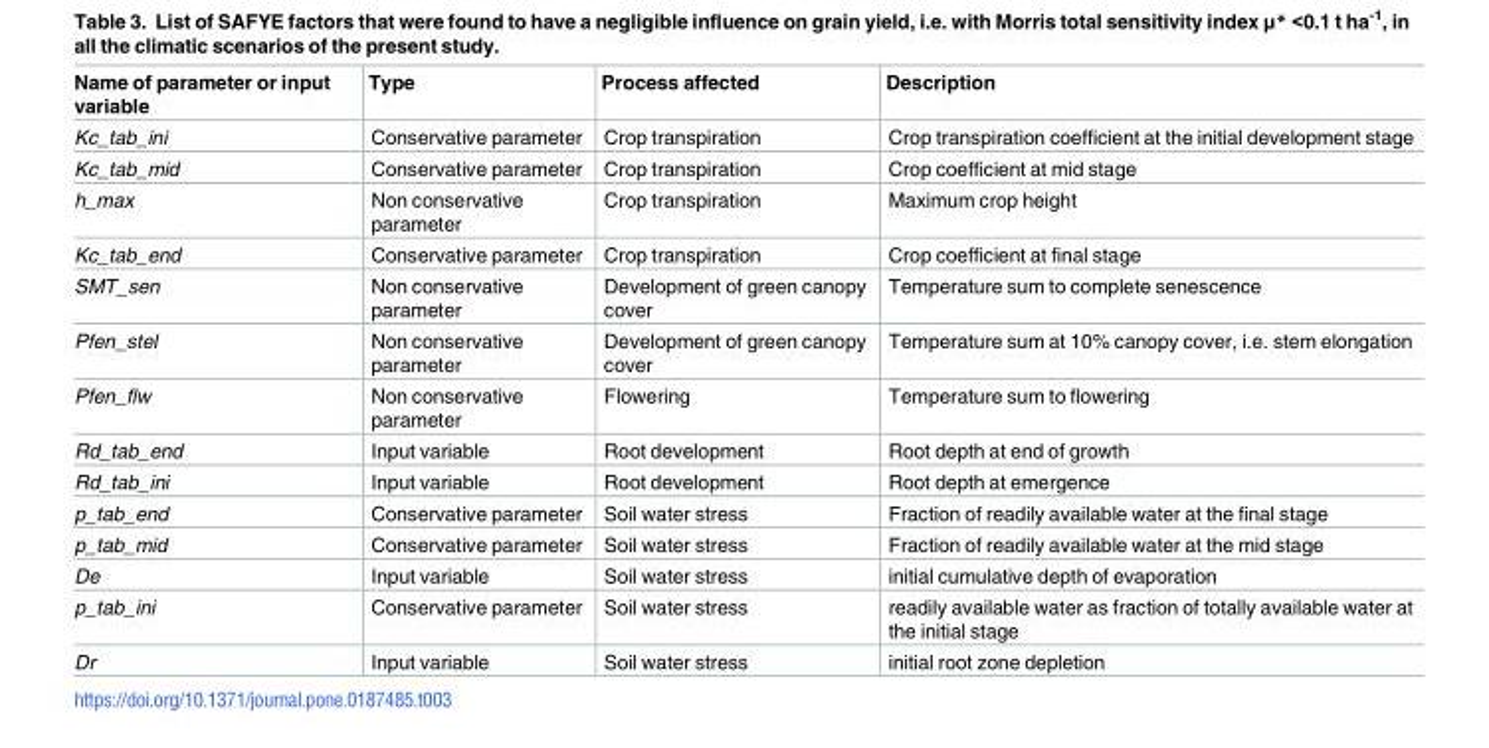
<table><thead><tr><td>Name of parameter or input variable</td><td>Type</td><td>Process affected</td><td>Description</td></tr></thead><tbody><tr><td>Kc_tab_ini</td><td>Conservative parameter</td><td>Crop transpiration</td><td>Crop transpiration coefficient at the initial development stage</td></tr><tr><td>Kc_tab_mid</td><td>Conservative parameter</td><td>Crop transpiration</td><td>Crop coefficient at mid stage</td></tr><tr><td>h_max</td><td>Non conservative parameter</td><td>Crop transpiration</td><td>Maximum crop height</td></tr><tr><td>Kc_tab_end</td><td>Conservative parameter</td><td>Crop transpiration</td><td>Crop coefficient at final stage</td></tr><tr><td>SMT_sen</td><td>Non conservative parameter</td><td>Development of green canopy cover</td><td>Temperature sum to complete senescence</td></tr><tr><td>Pfen_stel</td><td>Non conservative parameter</td><td>Development of green canopy cover</td><td>Temperature sum at 10% canopy cover, i.e. stem elongation</td></tr><tr><td>Pfen_flw</td><td>Non conservative parameter</td><td>Flowering</td><td>Temperature sum to flowering</td></tr><tr><td>Rd_tab_end</td><td>Input variable</td><td>Root development</td><td>Root depth at end of growth</td></tr><tr><td>Rd_tab_ini</td><td>Input variable</td><td>Root development</td><td>Root depth at emergence</td></tr><tr><td>p_tab_end</td><td>Conservative parameter</td><td>Soil water stress</td><td>Fraction of readily available water at the final stage</td></tr><tr><td>p_tab_mid</td><td>Conservative parameter</td><td>Soil water stress</td><td>Fraction of readily available water at the mid stage</td></tr><tr><td>De</td><td>Input variable</td><td>Soil water stress</td><td>initial cumulative depth of evaporation</td></tr><tr><td>p_tab_ini</td><td>Conservative parameter</td><td>Soil water stress</td><td>readily available water as fraction of totally available water at the initial stage</td></tr><tr><td>Dr</td><td>Input variable</td><td>Soil water stress</td><td>initial root zone depletion</td></tr></tbody></table>